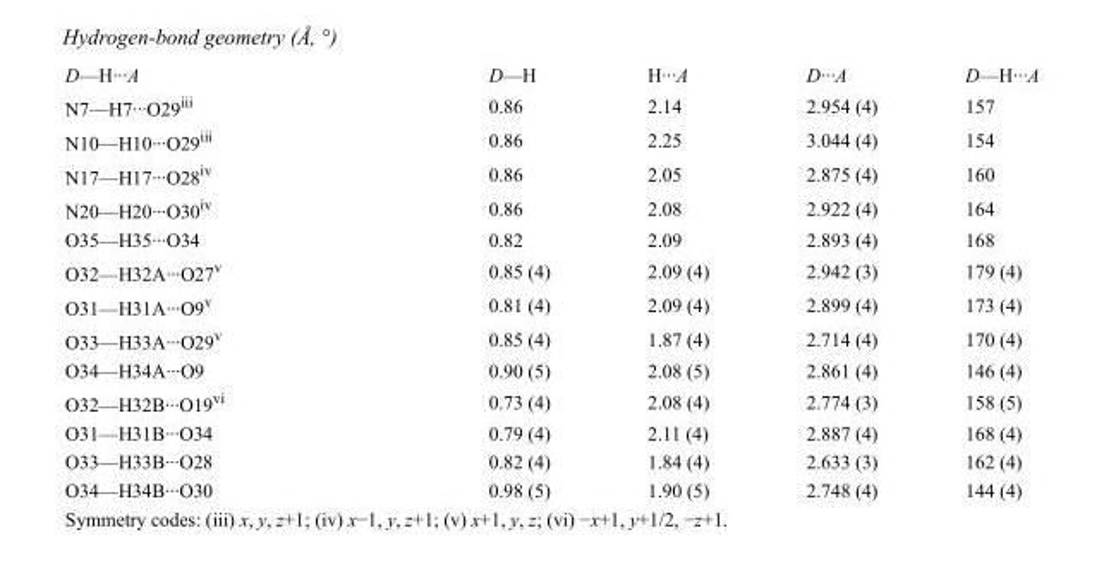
<table><tbody><tr><td>D—H···A</td><td>D—H</td><td>H···A</td><td>D···A</td><td>D—H···A</td></tr><tr><td>N7—H7···O29<sup>iii</sup></td><td>0.86</td><td>2.14</td><td>2.954 (4)</td><td>157</td></tr><tr><td>N10—H10···O29<sup>iii</sup></td><td>0.86</td><td>2.25</td><td>3.044 (4)</td><td>154</td></tr><tr><td>N17—H17···O28<sup>iv</sup></td><td>0.86</td><td>2.05</td><td>2.875 (4)</td><td>160</td></tr><tr><td>N20—H20···O30<sup>iv</sup></td><td>0.86</td><td>2.08</td><td>2.922 (4)</td><td>164</td></tr><tr><td>O35—H35···O34</td><td>0.82</td><td>2.09</td><td>2.893 (4)</td><td>168</td></tr><tr><td>O32—H32A···O27<sup>v</sup></td><td>0.85 (4)</td><td>2.09 (4)</td><td>2.942 (3)</td><td>179 (4)</td></tr><tr><td>O31—H31A···O9<sup>v</sup></td><td>0.81 (4)</td><td>2.09 (4)</td><td>2.899 (4)</td><td>173 (4)</td></tr><tr><td>O33—H33A···O29<sup>v</sup></td><td>0.85 (4)</td><td>1.87 (4)</td><td>2.714 (4)</td><td>170 (4)</td></tr><tr><td>O34—H34A···O9</td><td>0.90 (5)</td><td>2.08 (5)</td><td>2.861 (4)</td><td>146 (4)</td></tr><tr><td>O32—H32B···O19<sup>vi</sup></td><td>0.73 (4)</td><td>2.08 (4)</td><td>2.774 (3)</td><td>158 (5)</td></tr><tr><td>O31—H31B···O34</td><td>0.79 (4)</td><td>2.11 (4)</td><td>2.887 (4)</td><td>168 (4)</td></tr><tr><td>O33—H33B···O28</td><td>0.82 (4)</td><td>1.84 (4)</td><td>2.633 (3)</td><td>162 (4)</td></tr><tr><td>O34—H34B···O30</td><td>0.98 (5)</td><td>1.90 (5)</td><td>2.748 (4)</td><td>144 (4)</td></tr></tbody></table>